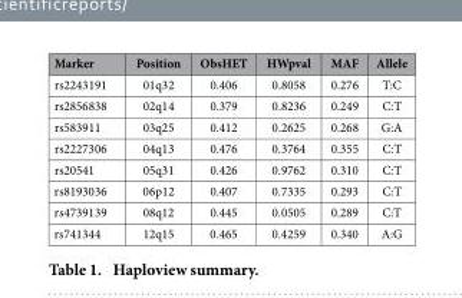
<table><thead><tr><td>Marker</td><td>Position</td><td>ObsHET</td><td>HWpval</td><td>MAF</td><td>Allele</td></tr></thead><tbody><tr><td>rs2243191</td><td>01q32</td><td>0.406</td><td>0.8058</td><td>0.276</td><td>T:C</td></tr><tr><td>rs2856838</td><td>02q14</td><td>0.379</td><td>0.8236</td><td>0.249</td><td>C:T</td></tr><tr><td>rs583911</td><td>03q25</td><td>0.412</td><td>0.2625</td><td>0.268</td><td>G:A</td></tr><tr><td>rs2227306</td><td>04q13</td><td>0.476</td><td>0.3764</td><td>0.355</td><td>C:T</td></tr><tr><td>rs20541</td><td>05q31</td><td>0.426</td><td>0.9762</td><td>0.310</td><td>C:T</td></tr><tr><td>rs8193036</td><td>06p12</td><td>0.407</td><td>0.7335</td><td>0.293</td><td>C:T</td></tr><tr><td>rs4739139</td><td>08q12</td><td>0.445</td><td>0.0505</td><td>0.289</td><td>C:T</td></tr><tr><td>rs741344</td><td>12q15</td><td>0.465</td><td>0.4259</td><td>0.340</td><td>A:G</td></tr></tbody></table>